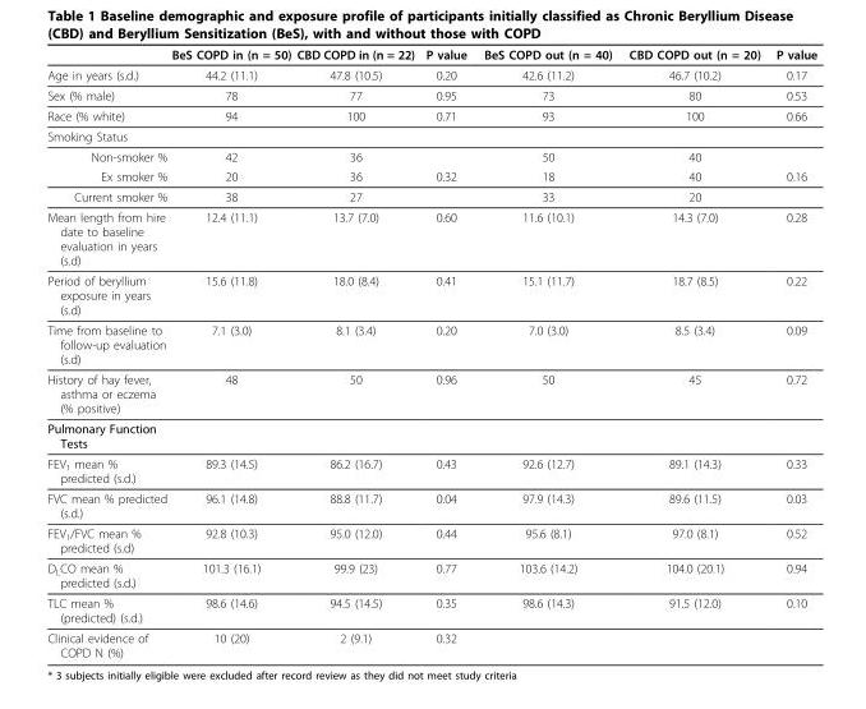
<table><thead><tr><td></td><td>BeS COPD in (n = 50)</td><td>CBD COPD in (n = 22)</td><td>P value</td><td>BeS COPD out (n = 40)</td><td>CBD COPD out (n = 20)</td><td>P value</td></tr></thead><tbody><tr><td>Age in years (s.d.)</td><td>44.2 (11.1)</td><td>47.8 (10.5)</td><td>0.20</td><td>42.6 (11.2)</td><td>46.7 (10.2)</td><td>0.17</td></tr><tr><td>Sex (% male)</td><td>78</td><td>77</td><td>0.95</td><td>73</td><td>80</td><td>0.53</td></tr><tr><td>Race (% white)</td><td>94</td><td>100</td><td>0.71</td><td>93</td><td>100</td><td>0.66</td></tr><tr><td colspan="7">Smoking Status</td></tr><tr><td>Non-smoker %</td><td>42</td><td>36</td><td></td><td>50</td><td>40</td><td></td></tr><tr><td>Ex smoker %</td><td>20</td><td>36</td><td>0.32</td><td>18</td><td>40</td><td>0.16</td></tr><tr><td>Current smoker %</td><td>38</td><td>27</td><td></td><td>33</td><td>20</td><td></td></tr><tr><td>Mean length from hire date to baseline evaluation in years (s.d)</td><td>12.4 (11.1)</td><td>13.7 (7.0)</td><td>0.60</td><td>11.6 (10.1)</td><td>14.3 (7.0)</td><td>0.28</td></tr><tr><td>Period of beryllium exposure in years (s.d)</td><td>15.6 (11.8)</td><td>18.0 (8.4)</td><td>0.41</td><td>15.1 (11.7)</td><td>18.7 (8.5)</td><td>0.22</td></tr><tr><td>Time from baseline to follow-up evaluation (s.d)</td><td>7.1 (3.0)</td><td>8.1 (3.4)</td><td>0.20</td><td>7.0 (3.0)</td><td>8.5 (3.4)</td><td>0.09</td></tr><tr><td>History of hay fever, asthma or eczema (% positive)</td><td>48</td><td>50</td><td>0.96</td><td>50</td><td>45</td><td>0.72</td></tr><tr><td colspan="7">Pulmonary Function Tests</td></tr><tr><td>FEV<sub>1</sub> mean % predicted (s.d.)</td><td>89.3 (14.5)</td><td>86.2 (16.7)</td><td>0.43</td><td>92.6 (12.7)</td><td>89.1 (14.3)</td><td>0.33</td></tr><tr><td>FVC mean % predicted (s.d.)</td><td>96.1 (14.8)</td><td>88.8 (11.7)</td><td>0.04</td><td>97.9 (14.3)</td><td>89.6 (11.5)</td><td>0.03</td></tr><tr><td>FEV<sub>1</sub>/FVC mean % predicted (s.d)</td><td>92.8 (10.3)</td><td>95.0 (12.0)</td><td>0.44</td><td>95.6 (8.1)</td><td>97.0 (8.1)</td><td>0.52</td></tr><tr><td>D<sub>L</sub>CO mean % predicted (s.d.)</td><td>101.3 (16.1)</td><td>99.9 (23)</td><td>0.77</td><td>103.6 (14.2)</td><td>104.0 (20.1)</td><td>0.94</td></tr><tr><td>TLC mean % (predicted) (s.d.)</td><td>98.6 (14.6)</td><td>94.5 (14.5)</td><td>0.35</td><td>98.6 (14.3)</td><td>91.5 (12.0)</td><td>0.10</td></tr><tr><td>Clinical evidence of COPD N (%)</td><td>10 (20)</td><td>2 (9.1)</td><td>0.32</td><td></td><td></td><td></td></tr></tbody></table>